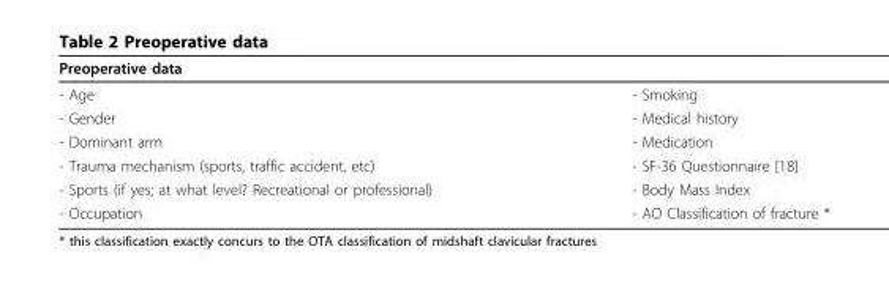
<table><thead><tr><td colspan="2">Preoperative data</td></tr><tr><td>- Age</td><td>- Smoking</td></tr></thead><tbody><tr><td>- Gender</td><td>- Medical history</td></tr><tr><td>- Dominant arm</td><td>- Medication</td></tr><tr><td>- Trauma mechanism (sports, traffic accident, etc)</td><td>- SF-36 Questionnaire [18]</td></tr><tr><td>- Sports (if yes; at what level? Recreational or professional)</td><td>- Body Mass Index</td></tr><tr><td>- Occupation</td><td>- AO Classification of fracture *</td></tr></tbody></table>